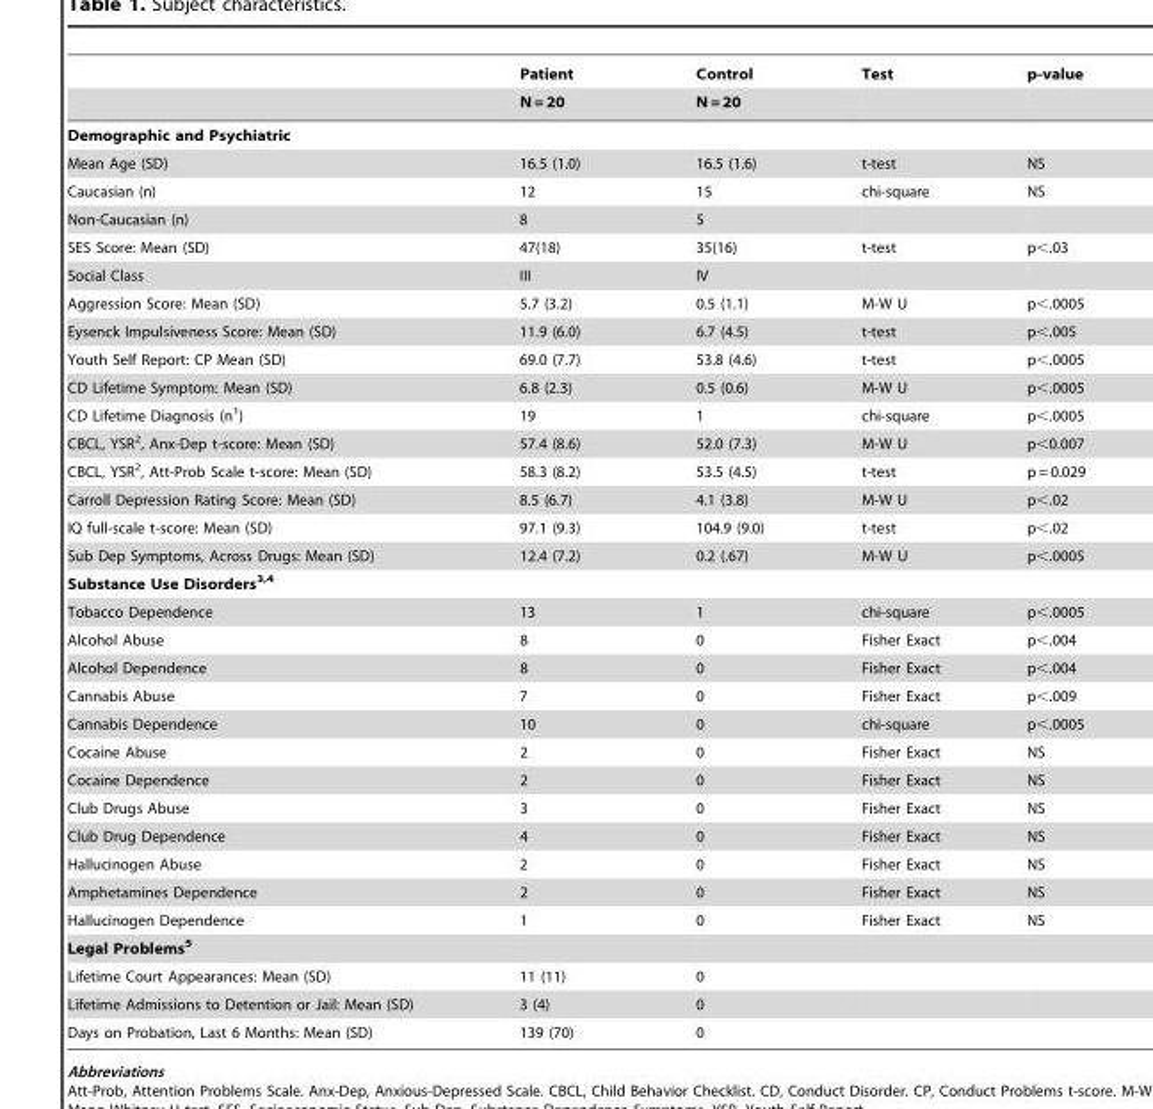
<table><thead><tr><td rowspan="2"></td><td rowspan="2">Patient N = 20</td><td rowspan="2">Control N = 20</td><td rowspan="2">Test</td><td rowspan="2">p-value</td></tr><tr></tr></thead><tbody><tr><td colspan="5">Demographic and Psychiatric</td></tr><tr><td>Mean Age (SD)</td><td>16.5 (1.0)</td><td>16.5 (1.6)</td><td>t-test</td><td>NS</td></tr><tr><td>Caucasian (n)</td><td>12</td><td>15</td><td>chi-square</td><td>NS</td></tr><tr><td>Non-Caucasian (n)</td><td>8</td><td>5</td><td></td><td></td></tr><tr><td>SES Score: Mean (SD)</td><td>47(18)</td><td>35(16)</td><td>t-test</td><td>p&lt;.03</td></tr><tr><td>Social Class</td><td>III</td><td>IV</td><td></td><td></td></tr><tr><td>Aggression Score: Mean (SD)</td><td>5.7 (3.2)</td><td>0.5 (1.1)</td><td>M-W U</td><td>p&lt;.0005</td></tr><tr><td>Eysenck Impulsiveness Score: Mean (SD)</td><td>11.9 (6.0)</td><td>6.7 (4.5)</td><td>t-test</td><td>p&lt;.005</td></tr><tr><td>Youth Self Report: CP Mean (SD)</td><td>69.0 (7.7)</td><td>53.8 (4.6)</td><td>t-test</td><td>p&lt;.0005</td></tr><tr><td>CD Lifetime Symptom: Mean (SD)</td><td>6.8 (2.3)</td><td>0.5 (0.6)</td><td>M-W U</td><td>p&lt;.0005</td></tr><tr><td>CD Lifetime Diagnosis (n<sup>1</sup>)</td><td>19</td><td>1</td><td>chi-square</td><td>p&lt;.0005</td></tr><tr><td>CBCL, YSR<sup>2</sup>, Anx-Dep t-score: Mean (SD)</td><td>57.4 (8.6)</td><td>52.0 (7.3)</td><td>M-W U</td><td>p&lt;0.007</td></tr><tr><td>CBCL, YSR<sup>2</sup>, Att-Prob Scale t-score: Mean (SD)</td><td>58.3 (8.2)</td><td>53.5 (4.5)</td><td>t-test</td><td>p = 0.029</td></tr><tr><td>Carroll Depression Rating Score: Mean (SD)</td><td>8.5 (6.7)</td><td>4.1 (3.8)</td><td>M-W U</td><td>p&lt;.02</td></tr><tr><td>IQ full-scale t-score: Mean (SD)</td><td>97.1 (9.3)</td><td>104.9 (9.0)</td><td>t-test</td><td>p&lt;.02</td></tr><tr><td>Sub Dep Symptoms, Across Drugs: Mean (SD)</td><td>12.4 (7.2)</td><td>0.2 (.67)</td><td>M-W U</td><td>p&lt;.0005</td></tr><tr><td colspan="5">Substance Use Disorders3,4</td></tr><tr><td>Tobacco Dependence</td><td>13</td><td>1</td><td>chi-square</td><td>p&lt;.0005</td></tr><tr><td>Alcohol Abuse</td><td>8</td><td>0</td><td>Fisher Exact</td><td>p&lt;.004</td></tr><tr><td>Alcohol Dependence</td><td>8</td><td>0</td><td>Fisher Exact</td><td>p&lt;.004</td></tr><tr><td>Cannabis Abuse</td><td>7</td><td>0</td><td>Fisher Exact</td><td>p&lt;.009</td></tr><tr><td>Cannabis Dependence</td><td>10</td><td>0</td><td>chi-square</td><td>p&lt;.0005</td></tr><tr><td>Cocaine Abuse</td><td>2</td><td>0</td><td>Fisher Exact</td><td>NS</td></tr><tr><td>Cocaine Dependence</td><td>2</td><td>0</td><td>Fisher Exact</td><td>NS</td></tr><tr><td>Club Drugs Abuse</td><td>3</td><td>0</td><td>Fisher Exact</td><td>NS</td></tr><tr><td>Club Drug Dependence</td><td>4</td><td>0</td><td>Fisher Exact</td><td>NS</td></tr><tr><td>Hallucinogen Abuse</td><td>2</td><td>0</td><td>Fisher Exact</td><td>NS</td></tr><tr><td>Amphetamines Dependence</td><td>2</td><td>0</td><td>Fisher Exact</td><td>NS</td></tr><tr><td>Hallucinogen Dependence</td><td>1</td><td>0</td><td>Fisher Exact</td><td>NS</td></tr><tr><td colspan="5">Legal Problems5</td></tr><tr><td>Lifetime Court Appearances: Mean (SD)</td><td>11 (11)</td><td>0</td><td></td><td></td></tr><tr><td>Lifetime Admissions to Detention or Jail: Mean (SD)</td><td>3 (4)</td><td>0</td><td></td><td></td></tr><tr><td>Days on Probation, Last 6 Months: Mean (SD)</td><td>139 (70)</td><td>0</td><td></td><td></td></tr></tbody></table>